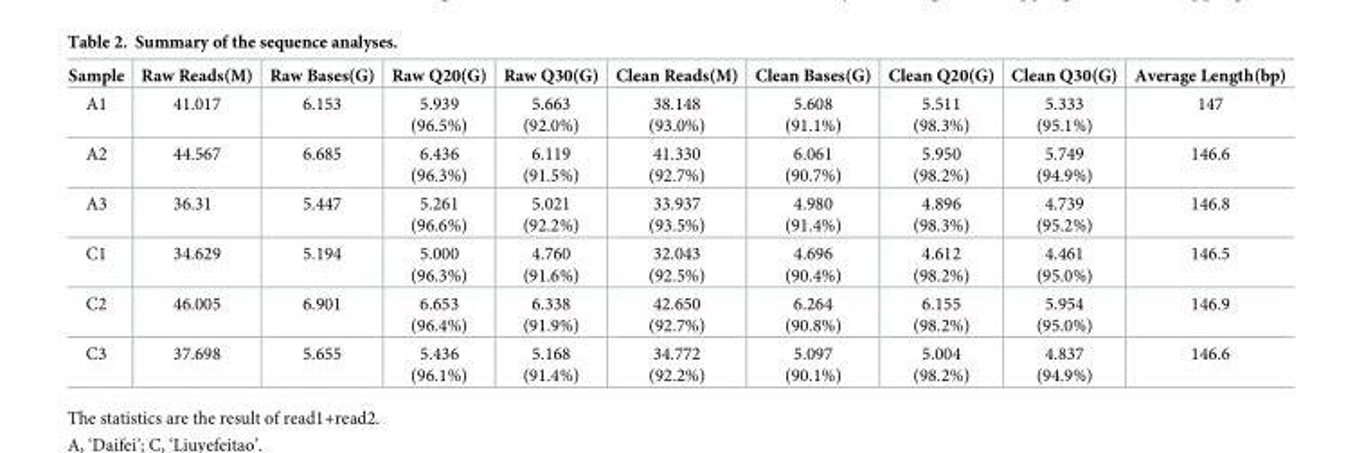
<table><thead><tr><td>Sample</td><td>Raw Reads(M)</td><td>Raw Bases(G)</td><td>Raw Q20(G)</td><td>Raw Q30(G)</td><td>Clean Reads(M)</td><td>Clean Bases(G)</td><td>Clean Q20(G)</td><td>Clean Q30(G)</td><td>Average Length(bp)</td></tr></thead><tbody><tr><td>A1</td><td>41.017</td><td>6.153</td><td>5.939 (96.5%)</td><td>5.663 (92.0%)</td><td>38.148 (93.0%)</td><td>5.608 (91.1%)</td><td>5.511 (98.3%)</td><td>5.333 (95.1%)</td><td>147</td></tr><tr><td>A2</td><td>44.567</td><td>6.685</td><td>6.436 (96.3%)</td><td>6.119 (91.5%)</td><td>41.330 (92.7%)</td><td>6.061 (90.7%)</td><td>5.950 (98.2%)</td><td>5.749 (94.9%)</td><td>146.6</td></tr><tr><td>A3</td><td>36.31</td><td>5.447</td><td>5.261 (96.6%)</td><td>5.021 (92.2%)</td><td>33.937 (93.5%)</td><td>4.980 (91.4%)</td><td>4.896 (98.3%)</td><td>4.739 (95.2%)</td><td>146.8</td></tr><tr><td>C1</td><td>34.629</td><td>5.194</td><td>5.000 (96.3%)</td><td>4.760 (91.6%)</td><td>32.043 (92.5%)</td><td>4.696 (90.4%)</td><td>4.612 (98.2%)</td><td>4.461 (95.0%)</td><td>146.5</td></tr><tr><td>C2</td><td>46.005</td><td>6.901</td><td>6.653 (96.4%)</td><td>6.338 (91.9%)</td><td>42.650 (92.7%)</td><td>6.264 (90.8%)</td><td>6.155 (98.2%)</td><td>5.954 (95.0%)</td><td>146.9</td></tr><tr><td>C3</td><td>37.698</td><td>5.655</td><td>5.436 (96.1%)</td><td>5.168 (91.4%)</td><td>34.772 (92.2%)</td><td>5.097 (90.1%)</td><td>5.004 (98.2%)</td><td>4.837 (94.9%)</td><td>146.6</td></tr></tbody></table>